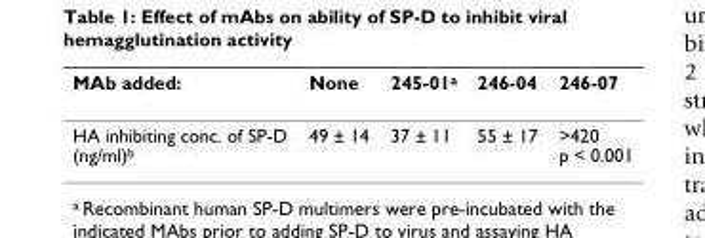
<table><thead><tr><td>MAb added:</td><td>None</td><td>245-01<sup>a</sup></td><td>246-04</td><td>246-07</td></tr></thead><tbody><tr><td>HA inhibiting conc. of SP-D (ng/ml)<sup>b</sup></td><td>49 ± 14</td><td>37 ± 11</td><td>55 ± 17</td><td>&gt;420 p &lt; 0.001</td></tr></tbody></table>